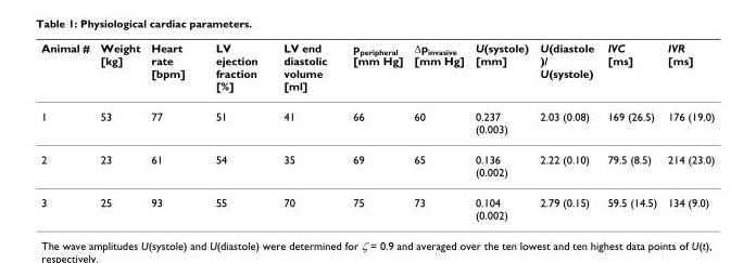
<table><thead><tr><td>Animal #</td><td>Weight [kg]</td><td>Heart rate [bpm]</td><td>LV ejection fraction [%]</td><td>LV end diastolic volume [ml]</td><td>p<sub>peripheral</sub> [mm Hg]</td><td>Δp<sub>invasive</sub> [mm Hg]</td><td>U(systole) [mm]</td><td>U(diastole )/ U(systole)</td><td>IVC [ms]</td><td>IVR [ms]</td></tr></thead><tbody><tr><td>1</td><td>53</td><td>77</td><td>51</td><td>41</td><td>66</td><td>60</td><td>0.237 (0.003)</td><td>2.03 (0.08)</td><td>169 (26.5)</td><td>176 (19.0)</td></tr><tr><td>2</td><td>23</td><td>61</td><td>54</td><td>35</td><td>69</td><td>65</td><td>0.136 (0.002)</td><td>2.22 (0.10)</td><td>79.5 (8.5)</td><td>214 (23.0)</td></tr><tr><td>3</td><td>25</td><td>93</td><td>55</td><td>70</td><td>75</td><td>73</td><td>0.104 (0.002)</td><td>2.79 (0.15)</td><td>59.5 (14.5)</td><td>134 (9.0)</td></tr></tbody></table>